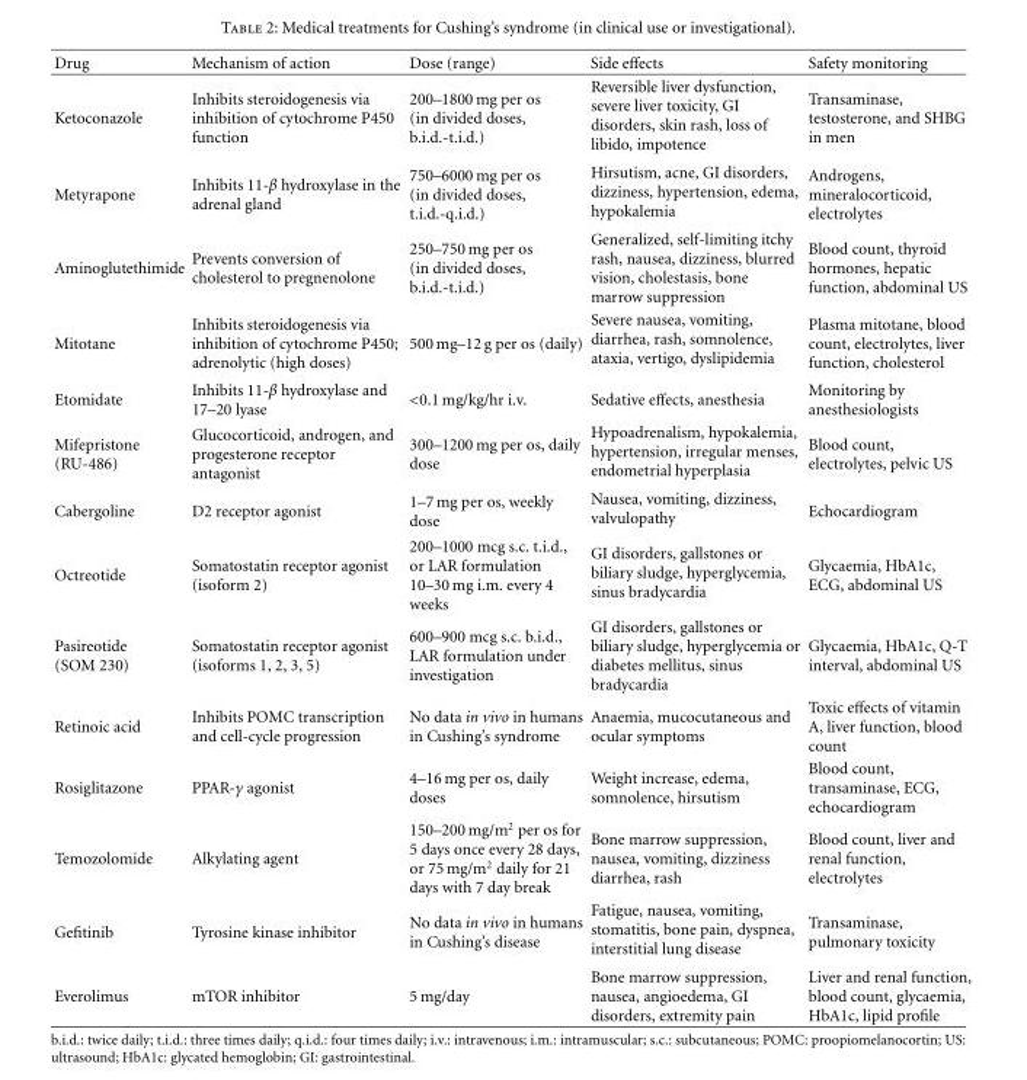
<table><thead><tr><td>Drug</td><td>Mechanism of action</td><td>Dose (range)</td><td>Side effects</td><td>Safety monitoring</td></tr></thead><tbody><tr><td>Ketoconazole</td><td>Inhibits steroidogenesis via inhibition of cytochrome P450 function</td><td>200–1800 mg per os (in divided doses, b.i.d.-t.i.d.)</td><td>Reversible liver dysfunction, severe liver toxicity, GI disorders, skin rash, loss of libido, impotence</td><td>Transaminase, testosterone, and SHBG in men</td></tr><tr><td>Metyrapone</td><td>Inhibits 11-β hydroxylase in the adrenal gland</td><td>750–6000 mg per os (in divided doses, t.i.d.-q.i.d.)</td><td>Hirsutism, acne, GI disorders, dizziness, hypertension, edema, hypokalemia</td><td>Androgens, mineralocorticoid, electrolytes</td></tr><tr><td>Aminoglutethimide</td><td>Prevents conversion of cholesterol to pregnenolone</td><td>250–750 mg per os (in divided doses, b.i.d.-t.i.d.)</td><td>Generalized, self-limiting itchy rash, nausea, dizziness, blurred vision, cholestasis, bone marrow suppression</td><td>Blood count, thyroid hormones, hepatic function, abdominal US</td></tr><tr><td>Mitotane</td><td>Inhibits steroidogenesis via inhibition of cytochrome P450; adrenolytic (high doses)</td><td>500 mg–12 g per os (daily)</td><td>Severe nausea, vomiting, diarrhea, rash, somnolence, ataxia, vertigo, dyslipidemia</td><td>Plasma mitotane, blood count, electrolytes, liver function, cholesterol</td></tr><tr><td>Etomidate</td><td>Inhibits 11-β hydroxylase and 17–20 lyase</td><td>&lt;0.1 mg/kg/hr i.v.</td><td>Sedative effects, anesthesia</td><td>Monitoring by anesthesiologists</td></tr><tr><td>Mifepristone (RU-486)</td><td>Glucocorticoid, androgen, and progesterone receptor antagonist</td><td>300–1200 mg per os, daily dose</td><td>Hypoadrenalism, hypokalemia, hypertension, irregular menses, endometrial hyperplasia</td><td>Blood count, electrolytes, pelvic US</td></tr><tr><td>Cabergoline</td><td>D2 receptor agonist</td><td>1–7 mg per os, weekly dose</td><td>Nausea, vomiting, dizziness, valvulopathy</td><td>Echocardiogram</td></tr><tr><td>Octreotide</td><td>Somatostatin receptor agonist (isoform 2)</td><td>200–1000 mcg s.c. t.i.d., or LAR formulation 10–30 mg i.m. every 4 weeks</td><td>GI disorders, gallstones or biliary sludge, hyperglycemia, sinus bradycardia</td><td>Glycaemia, HbA1c, ECG, abdominal US</td></tr><tr><td>Pasireotide (SOM 230)</td><td>Somatostatin receptor agonist (isoforms 1, 2, 3, 5)</td><td>600–900 mcg s.c. b.i.d., LAR formulation under investigation</td><td>GI disorders, gallstones or biliary sludge, hyperglycemia or diabetes mellitus, sinus bradycardia</td><td>Glycaemia, HbA1c, Q-T interval, abdominal US</td></tr><tr><td>Retinoic acid</td><td>Inhibits POMC transcription and cell-cycle progression</td><td>No data in vivo in humans in Cushing’s syndrome</td><td>Anaemia, mucocutaneous and ocular symptoms</td><td>Toxic effects of vitamin A, liver function, blood count</td></tr><tr><td>Rosiglitazone</td><td>PPAR-γ agonist</td><td>4–16 mg per os, daily doses</td><td>Weight increase, edema, somnolence, hirsutism</td><td>Blood count, transaminase, ECG, echocardiogram</td></tr><tr><td>Temozolomide</td><td>Alkylating agent</td><td>150–200 mg/m<sup>2</sup> per os for 5 days once every 28 days, or 75 mg/m<sup>2</sup> daily for 21 days with 7 day break</td><td>Bone marrow suppression, nausea, vomiting, dizziness diarrhea, rash</td><td>Blood count, liver and renal function, electrolytes</td></tr><tr><td>Gefitinib</td><td>Tyrosine kinase inhibitor</td><td>No data in vivo in humans in Cushing’s disease</td><td>Fatigue, nausea, vomiting, stomatitis, bone pain, dyspnea, interstitial lung disease</td><td>Transaminase, pulmonary toxicity</td></tr><tr><td>Everolimus</td><td>mTOR inhibitor</td><td>5 mg/day</td><td>Bone marrow suppression, nausea, angioedema, GI disorders, extremity pain</td><td>Liver and renal function, blood count, glycaemia, HbA1c, lipid profile</td></tr></tbody></table>